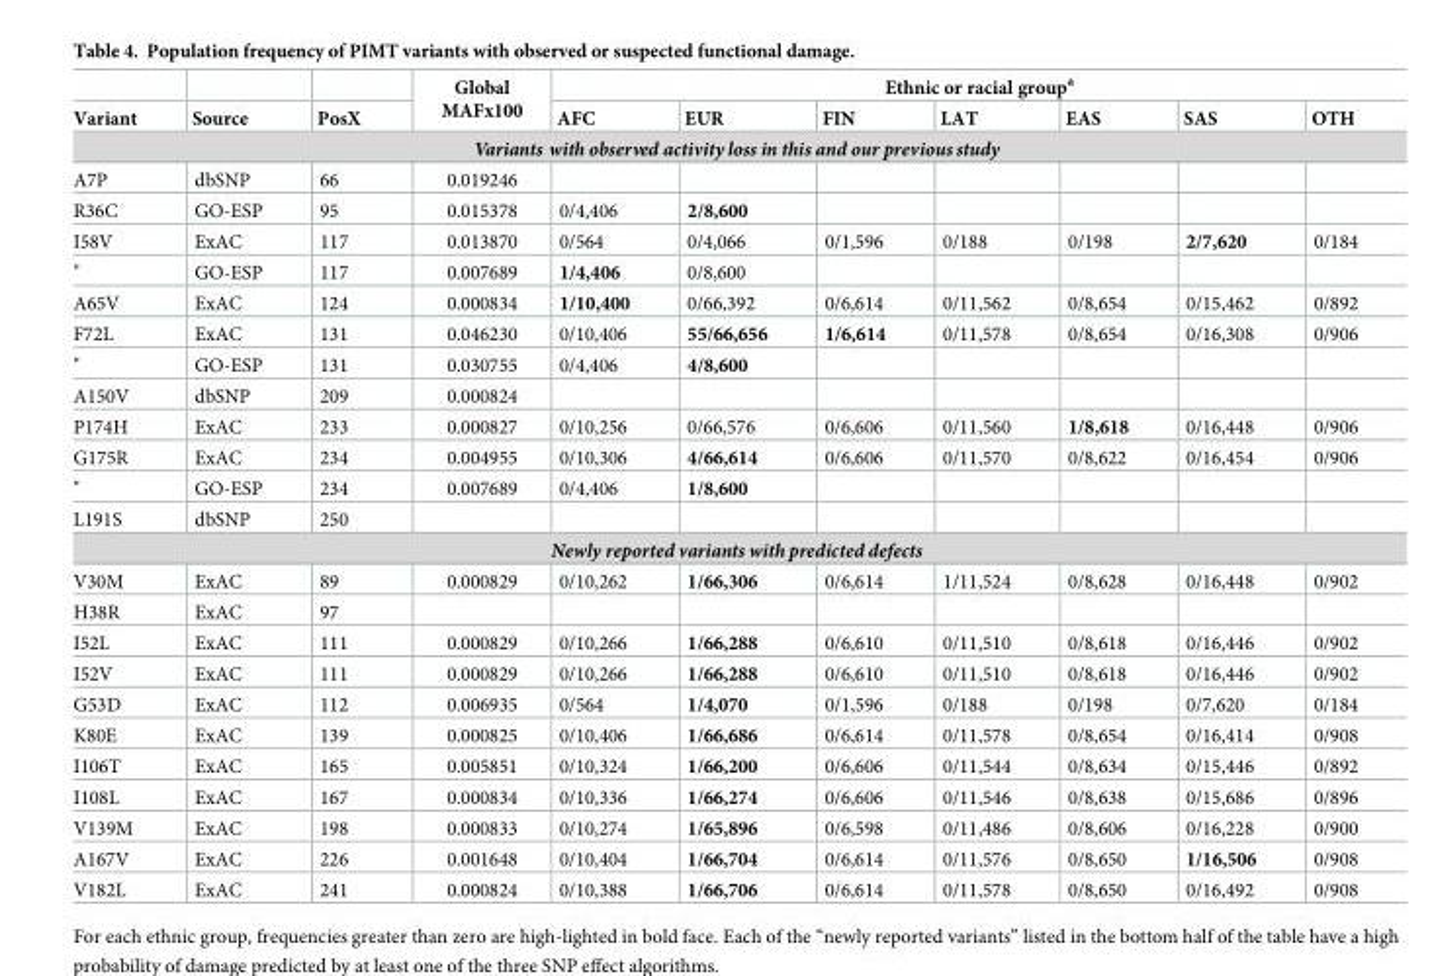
<table><thead><tr><td rowspan="2">Variant</td><td rowspan="2">Source</td><td rowspan="2">PosX</td><td rowspan="2">Global MAFx100</td><td colspan="7">Ethnic or racial group<sup>a</sup></td></tr><tr><td>AFC</td><td>EUR</td><td>FIN</td><td>LAT</td><td>EAS</td><td>SAS</td><td>OTH</td></tr></thead><tbody><tr><td colspan="11">Variants with observed activity loss in this and our previousstudy</td></tr><tr><td>A7P</td><td>dbSNP</td><td>66</td><td>0.019246</td><td></td><td></td><td></td><td></td><td></td><td></td><td></td></tr><tr><td>R36C</td><td>GO-ESP</td><td>95</td><td>0.015378</td><td>0/4,406</td><td>2/8,600</td><td></td><td></td><td></td><td></td><td></td></tr><tr><td>I58V</td><td>ExAC</td><td>117</td><td>0.013870</td><td>0/564</td><td>0/4,066</td><td>0/1,596</td><td>0/188</td><td>0/198</td><td>2/7,620</td><td>0/184</td></tr><tr><td>&quot;</td><td>GO-ESP</td><td>117</td><td>0.007689</td><td>1/4,406</td><td>0/8,600</td><td></td><td></td><td></td><td></td><td></td></tr><tr><td>A65V</td><td>ExAC</td><td>124</td><td>0.000834</td><td>1/10,400</td><td>0/66,392</td><td>0/6,614</td><td>0/11,562</td><td>0/8,654</td><td>0/15,462</td><td>0/892</td></tr><tr><td>F72L</td><td>ExAC</td><td>131</td><td>0.046230</td><td>0/10,406</td><td>55/66,656</td><td>1/6,614</td><td>0/11,578</td><td>0/8,654</td><td>0/16,308</td><td>0/906</td></tr><tr><td>&quot;</td><td>GO-ESP</td><td>131</td><td>0.030755</td><td>0/4,406</td><td>4/8,600</td><td></td><td></td><td></td><td></td><td></td></tr><tr><td>A150V</td><td>dbSNP</td><td>209</td><td>0.000824</td><td></td><td></td><td></td><td></td><td></td><td></td><td></td></tr><tr><td>P174H</td><td>ExAC</td><td>233</td><td>0.000827</td><td>0/10,256</td><td>0/66,576</td><td>0/6,606</td><td>0/11,560</td><td>1/8,618</td><td>0/16,448</td><td>0/906</td></tr><tr><td>G175R</td><td>ExAC</td><td>234</td><td>0.004955</td><td>0/10,306</td><td>4/66,614</td><td>0/6,606</td><td>0/11,570</td><td>0/8,622</td><td>0/16,454</td><td>0/906</td></tr><tr><td>&quot;</td><td>GO-ESP</td><td>234</td><td>0.007689</td><td>0/4,406</td><td>1/8,600</td><td></td><td></td><td></td><td></td><td></td></tr><tr><td>L191S</td><td>dbSNP</td><td>250</td><td></td><td></td><td></td><td></td><td></td><td></td><td></td><td></td></tr><tr><td colspan="11">Newly reported variants with predicted defects</td></tr><tr><td>V30M</td><td>ExAC</td><td>89</td><td>0.000829</td><td>0/10,262</td><td>1/66,306</td><td>0/6,614</td><td>1/11,524</td><td>0/8,628</td><td>0/16,448</td><td>0/902</td></tr><tr><td>H38R</td><td>ExAC</td><td>97</td><td></td><td></td><td></td><td></td><td></td><td></td><td></td><td></td></tr><tr><td>I52L</td><td>ExAC</td><td>111</td><td>0.000829</td><td>0/10,266</td><td>1/66,288</td><td>0/6,610</td><td>0/11,510</td><td>0/8,618</td><td>0/16,446</td><td>0/902</td></tr><tr><td>I52V</td><td>ExAC</td><td>111</td><td>0.000829</td><td>0/10,266</td><td>1/66,288</td><td>0/6,610</td><td>0/11,510</td><td>0/8,618</td><td>0/16,446</td><td>0/902</td></tr><tr><td>G53D</td><td>ExAC</td><td>112</td><td>0.006935</td><td>0/564</td><td>1/4,070</td><td>0/1,596</td><td>0/188</td><td>0/198</td><td>0/7,620</td><td>0/184</td></tr><tr><td>K80E</td><td>ExAC</td><td>139</td><td>0.000825</td><td>0/10,406</td><td>1/66,686</td><td>0/6,614</td><td>0/11,578</td><td>0/8,654</td><td>0/16,414</td><td>0/908</td></tr><tr><td>I106T</td><td>ExAC</td><td>165</td><td>0.005851</td><td>0/10,324</td><td>1/66,200</td><td>0/6,606</td><td>0/11,544</td><td>0/8,634</td><td>0/15,446</td><td>0/892</td></tr><tr><td>I108L</td><td>ExAC</td><td>167</td><td>0.000834</td><td>0/10,336</td><td>1/66,274</td><td>0/6,606</td><td>0/11,546</td><td>0/8,638</td><td>0/15,686</td><td>0/896</td></tr><tr><td>V139M</td><td>ExAC</td><td>198</td><td>0.000833</td><td>0/10,274</td><td>1/65,896</td><td>0/6,598</td><td>0/11,486</td><td>0/8,606</td><td>0/16,228</td><td>0/900</td></tr><tr><td>A167V</td><td>ExAC</td><td>226</td><td>0.001648</td><td>0/10,404</td><td>1/66,704</td><td>0/6,614</td><td>0/11,576</td><td>0/8,650</td><td>1/16,506</td><td>0/908</td></tr><tr><td>V182L</td><td>ExAC</td><td>241</td><td>0.000824</td><td>0/10,388</td><td>1/66,706</td><td>0/6,614</td><td>0/11,578</td><td>0/8,650</td><td>0/16,492</td><td>0/908</td></tr></tbody></table>